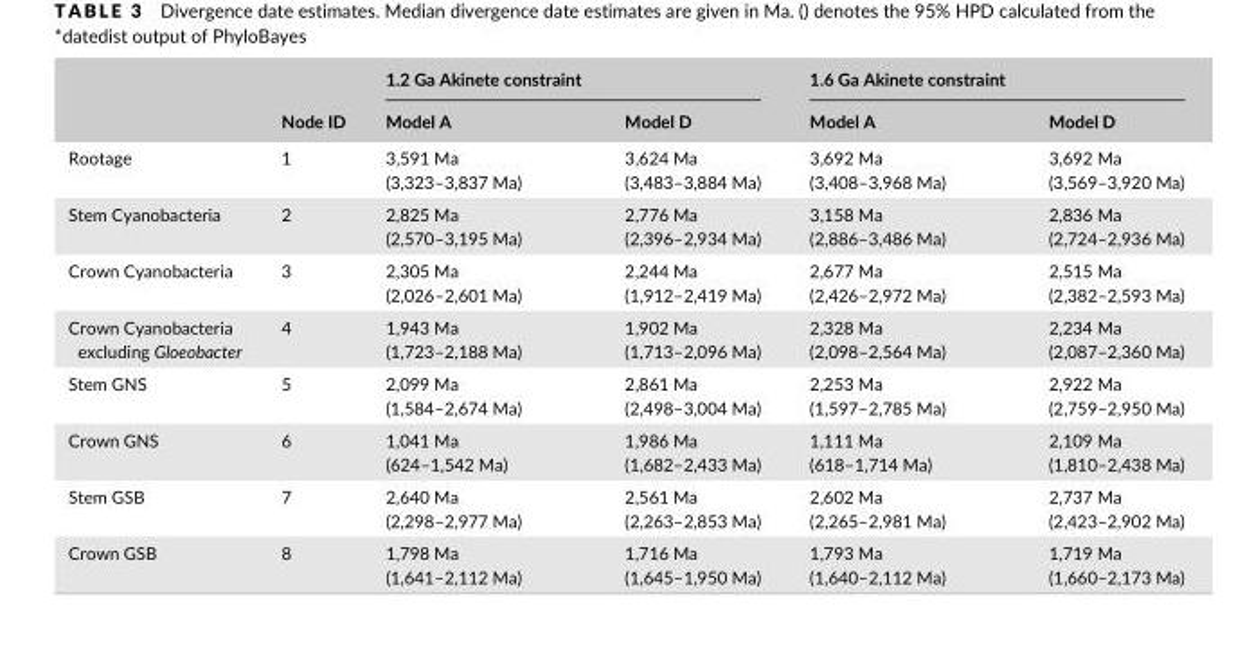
<table><thead><tr><td rowspan="2"></td><td rowspan="2">Node ID</td><td colspan="2">1.2 Ga Akinete constraint</td><td colspan="2">1.6 Ga Akinete constraint</td></tr><tr><td>Model A</td><td>Model D</td><td>Model A</td><td>Model D</td></tr></thead><tbody><tr><td>Rootage</td><td>1</td><td>3,591 Ma (3,323–3,837 Ma)</td><td>3,624 Ma (3,483–3,884 Ma)</td><td>3,692 Ma (3,408–3,968 Ma)</td><td>3,692 Ma (3,569–3,920 Ma)</td></tr><tr><td>Stem Cyanobacteria</td><td>2</td><td>2,825 Ma (2,570–3,195 Ma)</td><td>2,776 Ma (2,396–2,934 Ma)</td><td>3,158 Ma (2,886–3,486 Ma)</td><td>2,836 Ma (2,724–2,936 Ma)</td></tr><tr><td>Crown Cyanobacteria</td><td>3</td><td>2,305 Ma (2,026–2,601 Ma)</td><td>2,244 Ma (1,912–2,419 Ma)</td><td>2,677 Ma (2,426–2,972 Ma)</td><td>2,515 Ma (2,382–2,593 Ma)</td></tr><tr><td>Crown Cyanobacteria excluding Gloeobacter</td><td>4</td><td>1,943 Ma (1,723–2,188 Ma)</td><td>1,902 Ma (1,713–2,096 Ma)</td><td>2,328 Ma (2,098–2,564 Ma)</td><td>2,234 Ma (2,087–2,360 Ma)</td></tr><tr><td>Stem GNS</td><td>5</td><td>2,099 Ma (1,584–2,674 Ma)</td><td>2,861 Ma (2,498–3,004 Ma)</td><td>2,253 Ma (1,597–2,785 Ma)</td><td>2,922 Ma (2,759–2,950 Ma)</td></tr><tr><td>Crown GNS</td><td>6</td><td>1,041 Ma (624–1,542 Ma)</td><td>1,986 Ma (1,682–2,433 Ma)</td><td>1,111 Ma (618–1,714 Ma)</td><td>2,109 Ma (1,810–2,438 Ma)</td></tr><tr><td>Stem GSB</td><td>7</td><td>2,640 Ma (2,298–2,977 Ma)</td><td>2,561 Ma (2,263–2,853 Ma)</td><td>2,602 Ma (2,265–2,981 Ma)</td><td>2,737 Ma (2,423–2,902 Ma)</td></tr><tr><td>Crown GSB</td><td>8</td><td>1,798 Ma (1,641–2,112 Ma)</td><td>1,716 Ma (1,645–1,950 Ma)</td><td>1,793 Ma (1,640–2,112 Ma)</td><td>1,719 Ma (1,660–2,173 Ma)</td></tr></tbody></table>